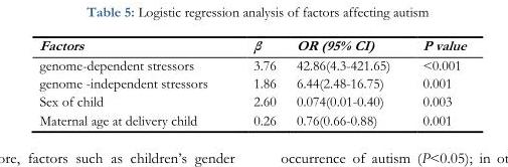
<table><thead><tr><td>Factors</td><td>β</td><td>OR (95% CI)</td><td>P value</td></tr></thead><tbody><tr><td>genome-dependent stressors</td><td>3.76</td><td>42.86(4.3-421.65)</td><td>&lt;0.001</td></tr><tr><td>genome -independent stressors</td><td>1.86</td><td>6.44(2.48-16.75)</td><td>0.001</td></tr><tr><td>Sex of child</td><td>2.60</td><td>0.074(0.01-0.40)</td><td>0.003</td></tr><tr><td>Maternal age at delivery child</td><td>0.26</td><td>0.76(0.66-0.88)</td><td>0.001</td></tr></tbody></table>